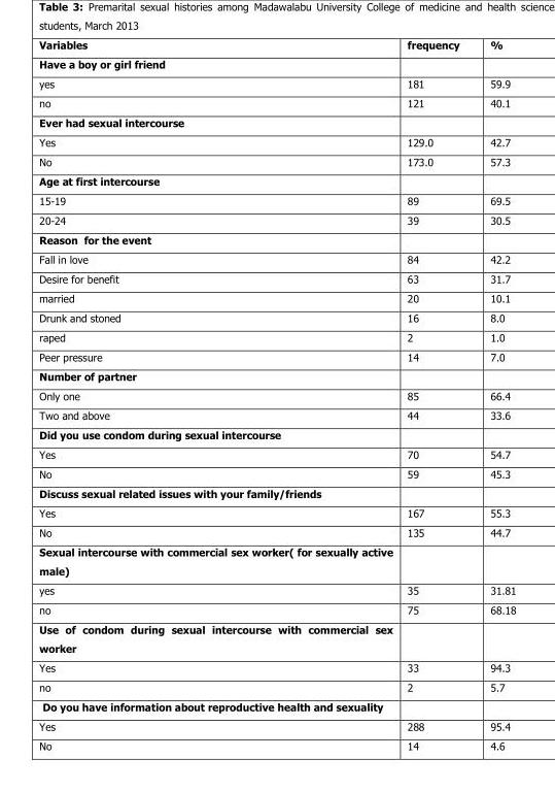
<table><thead><tr><td>Variables</td><td>frequency</td><td>%</td></tr></thead><tbody><tr><td colspan="3">Have a boy or girl friend</td></tr><tr><td>yes</td><td>181</td><td>59.9</td></tr><tr><td>no</td><td>121</td><td>40.1</td></tr><tr><td colspan="3">Ever had sexual intercourse</td></tr><tr><td>Yes</td><td>129.0</td><td>42.7</td></tr><tr><td>No</td><td>173.0</td><td>57.3</td></tr><tr><td colspan="3">Age at first intercourse</td></tr><tr><td>15-19</td><td>89</td><td>69.5</td></tr><tr><td>20-24</td><td>39</td><td>30.5</td></tr><tr><td colspan="3">Reason for the event</td></tr><tr><td>Fall in love</td><td>84</td><td>42.2</td></tr><tr><td>Desire for benefit</td><td>63</td><td>31.7</td></tr><tr><td>married</td><td>20</td><td>10.1</td></tr><tr><td>Drunk and stoned</td><td>16</td><td>8.0</td></tr><tr><td>raped</td><td>2</td><td>1.0</td></tr><tr><td>Peer pressure</td><td>14</td><td>7.0</td></tr><tr><td colspan="3">Number of partner</td></tr><tr><td>Only one</td><td>85</td><td>66.4</td></tr><tr><td>Two and above</td><td>44</td><td>33.6</td></tr><tr><td colspan="3">Did you use condom during sexual intercourse</td></tr><tr><td>Yes</td><td>70</td><td>54.7</td></tr><tr><td>No</td><td>59</td><td>45.3</td></tr><tr><td colspan="3">Discuss sexual related issues with your family/friends</td></tr><tr><td>Yes</td><td>167</td><td>55.3</td></tr><tr><td>No</td><td>135</td><td>44.7</td></tr><tr><td colspan="3">Sexual intercourse with commercial sex worker( for sexually active male)</td></tr><tr><td>yes</td><td>35</td><td>31.81</td></tr><tr><td>no</td><td>75</td><td>68.18</td></tr><tr><td colspan="3">Use of condom during sexual intercourse with commercial sex worker</td></tr><tr><td>Yes</td><td>33</td><td>94.3</td></tr><tr><td>no</td><td>2</td><td>5.7</td></tr><tr><td colspan="3">Do you have information about reproductive health and sexuality</td></tr><tr><td>Yes</td><td>288</td><td>95.4</td></tr><tr><td>No</td><td>14</td><td>4.6</td></tr></tbody></table>